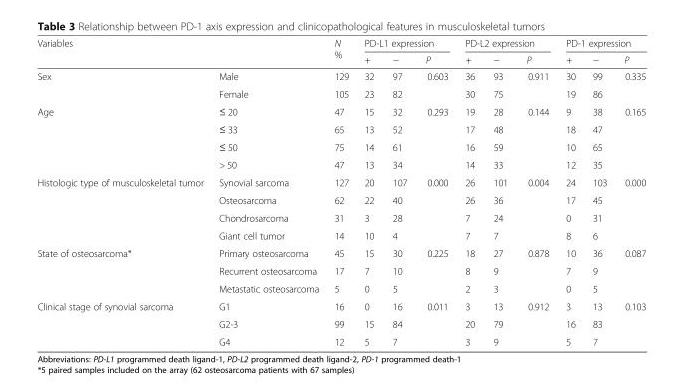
<table><thead><tr><td rowspan="2">Variables</td><td rowspan="2"></td><td rowspan="2">N %</td><td colspan="3">PD-L1 expression</td><td colspan="3">PD-L2 expression</td><td colspan="3">PD-1 expression</td></tr><tr><td>+</td><td>−</td><td>P</td><td>+</td><td>−</td><td>P</td><td>+</td><td>−</td><td>P</td></tr></thead><tbody><tr><td rowspan="2">Sex</td><td>Male</td><td>129</td><td>32</td><td>97</td><td>0.603</td><td>36</td><td>93</td><td>0.911</td><td>30</td><td>99</td><td>0.335</td></tr><tr><td>Female</td><td>105</td><td>23</td><td>82</td><td></td><td>30</td><td>75</td><td></td><td>19</td><td>86</td><td></td></tr><tr><td rowspan="4">Age</td><td>≤ 20</td><td>47</td><td>15</td><td>32</td><td>0.293</td><td>19</td><td>28</td><td>0.144</td><td>9</td><td>38</td><td>0.165</td></tr><tr><td>≤ 33</td><td>65</td><td>13</td><td>52</td><td></td><td>17</td><td>48</td><td></td><td>18</td><td>47</td><td></td></tr><tr><td>≤ 50</td><td>75</td><td>14</td><td>61</td><td></td><td>16</td><td>59</td><td></td><td>10</td><td>65</td><td></td></tr><tr><td>&gt; 50</td><td>47</td><td>13</td><td>34</td><td></td><td>14</td><td>33</td><td></td><td>12</td><td>35</td><td></td></tr><tr><td rowspan="4">Histologic type of musculoskeletal tumor</td><td>Synovial sarcoma</td><td>127</td><td>20</td><td>107</td><td>0.000</td><td>26</td><td>101</td><td>0.004</td><td>24</td><td>103</td><td>0.000</td></tr><tr><td>Osteosarcoma</td><td>62</td><td>22</td><td>40</td><td></td><td>26</td><td>36</td><td></td><td>17</td><td>45</td><td></td></tr><tr><td>Chondrosarcoma</td><td>31</td><td>3</td><td>28</td><td></td><td>7</td><td>24</td><td></td><td>0</td><td>31</td><td></td></tr><tr><td>Giant cell tumor</td><td>14</td><td>10</td><td>4</td><td></td><td>7</td><td>7</td><td></td><td>8</td><td>6</td><td></td></tr><tr><td rowspan="3">State of osteosarcoma*</td><td>Primary osteosarcoma</td><td>45</td><td>15</td><td>30</td><td>0.225</td><td>18</td><td>27</td><td>0.878</td><td>10</td><td>36</td><td>0.087</td></tr><tr><td>Recurrent osteosarcoma</td><td>17</td><td>7</td><td>10</td><td></td><td>8</td><td>9</td><td></td><td>7</td><td>9</td><td></td></tr><tr><td>Metastatic osteosarcoma</td><td>5</td><td>0</td><td>5</td><td></td><td>2</td><td>3</td><td></td><td>0</td><td>5</td><td></td></tr><tr><td rowspan="3">Clinical stage of synovial sarcoma</td><td>G1</td><td>16</td><td>0</td><td>16</td><td>0.011</td><td>3</td><td>13</td><td>0.912</td><td>3</td><td>13</td><td>0.103</td></tr><tr><td>G2-3</td><td>99</td><td>15</td><td>84</td><td></td><td>20</td><td>79</td><td></td><td>16</td><td>83</td><td></td></tr><tr><td>G4</td><td>12</td><td>5</td><td>7</td><td></td><td>3</td><td>9</td><td></td><td>5</td><td>7</td><td></td></tr></tbody></table>